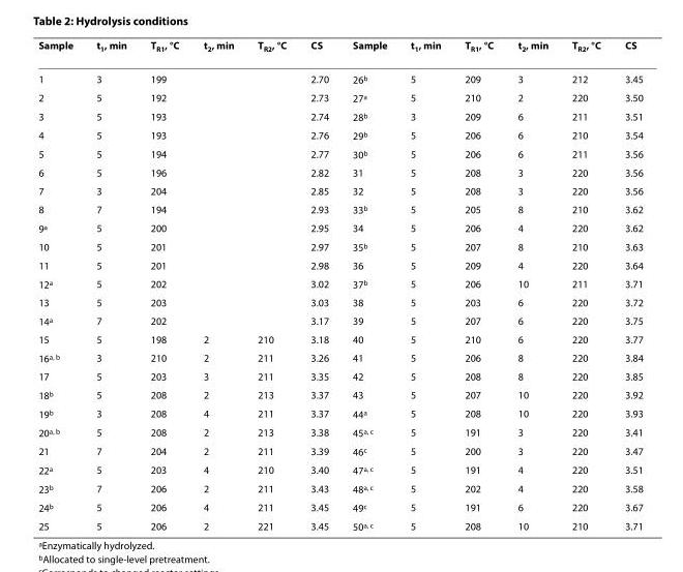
<table><thead><tr><td>Sample</td><td>t<sub>1</sub>, min</td><td>T<sub>R1</sub>, °C</td><td>t<sub>2</sub>, min</td><td>T<sub>R2</sub>, °C</td><td>CS</td><td>Sample</td><td>t<sub>1</sub>, min</td><td>T<sub>R1</sub>, °C</td><td>t<sub>2</sub>, min</td><td>T<sub>R2</sub>, °C</td><td>CS</td></tr></thead><tbody><tr><td>1</td><td>3</td><td>199</td><td></td><td></td><td>2.70</td><td>26<sup>b</sup></td><td>5</td><td>209</td><td>3</td><td>212</td><td>3.45</td></tr><tr><td>2</td><td>5</td><td>192</td><td></td><td></td><td>2.73</td><td>27<sup>a</sup></td><td>5</td><td>210</td><td>2</td><td>220</td><td>3.50</td></tr><tr><td>3</td><td>5</td><td>193</td><td></td><td></td><td>2.74</td><td>28<sup>b</sup></td><td>3</td><td>209</td><td>6</td><td>211</td><td>3.51</td></tr><tr><td>4</td><td>5</td><td>193</td><td></td><td></td><td>2.76</td><td>29<sup>b</sup></td><td>5</td><td>206</td><td>6</td><td>210</td><td>3.54</td></tr><tr><td>5</td><td>5</td><td>194</td><td></td><td></td><td>2.77</td><td>30<sup>b</sup></td><td>5</td><td>206</td><td>6</td><td>211</td><td>3.56</td></tr><tr><td>6</td><td>5</td><td>196</td><td></td><td></td><td>2.82</td><td>31</td><td>5</td><td>208</td><td>3</td><td>220</td><td>3.56</td></tr><tr><td>7</td><td>3</td><td>204</td><td></td><td></td><td>2.85</td><td>32</td><td>5</td><td>208</td><td>3</td><td>220</td><td>3.56</td></tr><tr><td>8</td><td>7</td><td>194</td><td></td><td></td><td>2.93</td><td>33<sup>b</sup></td><td>5</td><td>205</td><td>8</td><td>210</td><td>3.62</td></tr><tr><td>9<sup>a</sup></td><td>5</td><td>200</td><td></td><td></td><td>2.95</td><td>34</td><td>5</td><td>206</td><td>4</td><td>220</td><td>3.62</td></tr><tr><td>10</td><td>5</td><td>201</td><td></td><td></td><td>2.97</td><td>35<sup>b</sup></td><td>5</td><td>207</td><td>8</td><td>210</td><td>3.63</td></tr><tr><td>11</td><td>5</td><td>201</td><td></td><td></td><td>2.98</td><td>36</td><td>5</td><td>209</td><td>4</td><td>220</td><td>3.64</td></tr><tr><td>12<sup>a</sup></td><td>5</td><td>202</td><td></td><td></td><td>3.02</td><td>37<sup>b</sup></td><td>5</td><td>206</td><td>10</td><td>211</td><td>3.71</td></tr><tr><td>13</td><td>5</td><td>203</td><td></td><td></td><td>3.03</td><td>38</td><td>5</td><td>203</td><td>6</td><td>220</td><td>3.72</td></tr><tr><td>14<sup>a</sup></td><td>7</td><td>202</td><td></td><td></td><td>3.17</td><td>39</td><td>5</td><td>207</td><td>6</td><td>220</td><td>3.75</td></tr><tr><td>15</td><td>5</td><td>198</td><td>2</td><td>210</td><td>3.18</td><td>40</td><td>5</td><td>210</td><td>6</td><td>220</td><td>3.77</td></tr><tr><td>16<sup>a, b</sup></td><td>3</td><td>210</td><td>2</td><td>211</td><td>3.26</td><td>41</td><td>5</td><td>206</td><td>8</td><td>220</td><td>3.84</td></tr><tr><td>17</td><td>5</td><td>203</td><td>3</td><td>211</td><td>3.35</td><td>42</td><td>5</td><td>208</td><td>8</td><td>220</td><td>3.85</td></tr><tr><td>18<sup>b</sup></td><td>5</td><td>208</td><td>2</td><td>213</td><td>3.37</td><td>43</td><td>5</td><td>207</td><td>10</td><td>220</td><td>3.92</td></tr><tr><td>19<sup>b</sup></td><td>3</td><td>208</td><td>4</td><td>211</td><td>3.37</td><td>44<sup>a</sup></td><td>5</td><td>208</td><td>10</td><td>220</td><td>3.93</td></tr><tr><td>20<sup>a, b</sup></td><td>5</td><td>208</td><td>2</td><td>213</td><td>3.38</td><td>45<sup>a, c</sup></td><td>5</td><td>191</td><td>3</td><td>220</td><td>3.41</td></tr><tr><td>21</td><td>7</td><td>204</td><td>2</td><td>211</td><td>3.39</td><td>46<sup>c</sup></td><td>5</td><td>200</td><td>3</td><td>220</td><td>3.47</td></tr><tr><td>22<sup>a</sup></td><td>5</td><td>203</td><td>4</td><td>210</td><td>3.40</td><td>47<sup>a, c</sup></td><td>5</td><td>191</td><td>4</td><td>220</td><td>3.51</td></tr><tr><td>23<sup>b</sup></td><td>7</td><td>206</td><td>2</td><td>211</td><td>3.43</td><td>48<sup>a, c</sup></td><td>5</td><td>202</td><td>4</td><td>220</td><td>3.58</td></tr><tr><td>24<sup>b</sup></td><td>5</td><td>206</td><td>4</td><td>211</td><td>3.45</td><td>49<sup>c</sup></td><td>5</td><td>191</td><td>6</td><td>220</td><td>3.67</td></tr><tr><td>25</td><td>5</td><td>206</td><td>2</td><td>221</td><td>3.45</td><td>50<sup>a, c</sup></td><td>5</td><td>208</td><td>10</td><td>210</td><td>3.71</td></tr></tbody></table>